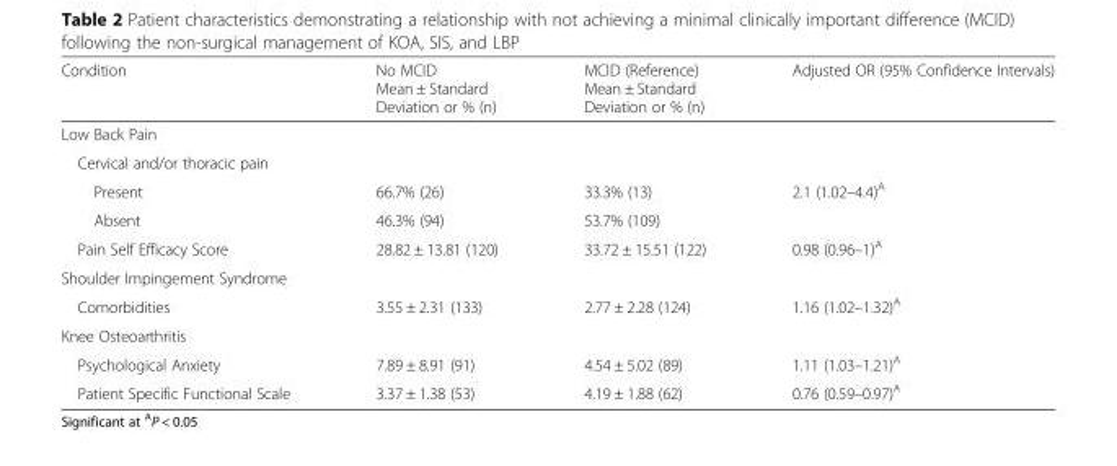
<table><thead><tr><td>Condition</td><td>No MCID Mean ± Standard Deviation or % (n)</td><td>MCID (Reference) Mean ± Standard Deviation or % (n)</td><td>Adjusted OR (95% Confidence Intervals)</td></tr></thead><tbody><tr><td colspan="4">Low Back Pain</td></tr><tr><td colspan="4">Cervical and/or thoracic pain</td></tr><tr><td>Present</td><td>66.7% (26)</td><td>33.3% (13)</td><td>2.1 (1.02–4.4)<sup>A</sup></td></tr><tr><td>Absent</td><td>46.3% (94)</td><td>53.7% (109)</td><td></td></tr><tr><td>Pain Self Efficacy Score</td><td>28.82 ± 13.81 (120)</td><td>33.72 ± 15.51 (122)</td><td>0.98 (0.96–1)<sup>A</sup></td></tr><tr><td colspan="4">Shoulder Impingement Syndrome</td></tr><tr><td>Comorbidities</td><td>3.55 ± 2.31 (133)</td><td>2.77 ± 2.28 (124)</td><td>1.16 (1.02–1.32)<sup>A</sup></td></tr><tr><td colspan="4">Knee Osteoarthritis</td></tr><tr><td>Psychological Anxiety</td><td>7.89 ± 8.91 (91)</td><td>4.54 ± 5.02 (89)</td><td>1.11 (1.03–1.21)<sup>A</sup></td></tr><tr><td>Patient Specific Functional Scale</td><td>3.37 ± 1.38 (53)</td><td>4.19 ± 1.88 (62)</td><td>0.76 (0.59–0.97)<sup>A</sup></td></tr></tbody></table>